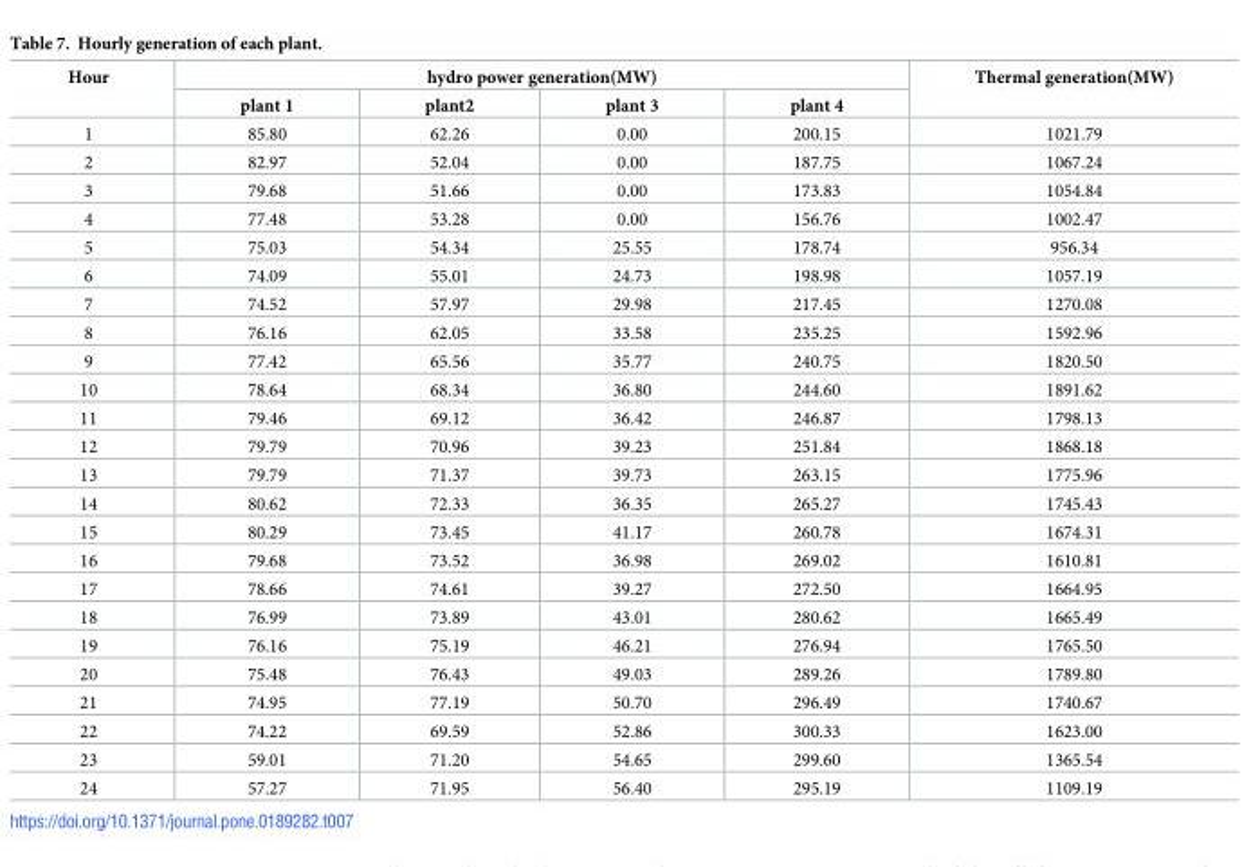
<table><thead><tr><td rowspan="2">Hour</td><td colspan="4">hydro power generation(MW)</td><td rowspan="2">Thermal generation(MW)</td></tr><tr><td>plant 1</td><td>plant2</td><td>plant 3</td><td>plant 4</td></tr></thead><tbody><tr><td>1</td><td>85.80</td><td>62.26</td><td>0.00</td><td>200.15</td><td>1021.79</td></tr><tr><td>2</td><td>82.97</td><td>52.04</td><td>0.00</td><td>187.75</td><td>1067.24</td></tr><tr><td>3</td><td>79.68</td><td>51.66</td><td>0.00</td><td>173.83</td><td>1054.84</td></tr><tr><td>4</td><td>77.48</td><td>53.28</td><td>0.00</td><td>156.76</td><td>1002.47</td></tr><tr><td>5</td><td>75.03</td><td>54.34</td><td>25.55</td><td>178.74</td><td>956.34</td></tr><tr><td>6</td><td>74.09</td><td>55.01</td><td>24.73</td><td>198.98</td><td>1057.19</td></tr><tr><td>7</td><td>74.52</td><td>57.97</td><td>29.98</td><td>217.45</td><td>1270.08</td></tr><tr><td>8</td><td>76.16</td><td>62.05</td><td>33.58</td><td>235.25</td><td>1592.96</td></tr><tr><td>9</td><td>77.42</td><td>65.56</td><td>35.77</td><td>240.75</td><td>1820.50</td></tr><tr><td>10</td><td>78.64</td><td>68.34</td><td>36.80</td><td>244.60</td><td>1891.62</td></tr><tr><td>11</td><td>79.46</td><td>69.12</td><td>36.42</td><td>246.87</td><td>1798.13</td></tr><tr><td>12</td><td>79.79</td><td>70.96</td><td>39.23</td><td>251.84</td><td>1868.18</td></tr><tr><td>13</td><td>79.79</td><td>71.37</td><td>39.73</td><td>263.15</td><td>1775.96</td></tr><tr><td>14</td><td>80.62</td><td>72.33</td><td>36.35</td><td>265.27</td><td>1745.43</td></tr><tr><td>15</td><td>80.29</td><td>73.45</td><td>41.17</td><td>260.78</td><td>1674.31</td></tr><tr><td>16</td><td>79.68</td><td>73.52</td><td>36.98</td><td>269.02</td><td>1610.81</td></tr><tr><td>17</td><td>78.66</td><td>74.61</td><td>39.27</td><td>272.50</td><td>1664.95</td></tr><tr><td>18</td><td>76.99</td><td>73.89</td><td>43.01</td><td>280.62</td><td>1665.49</td></tr><tr><td>19</td><td>76.16</td><td>75.19</td><td>46.21</td><td>276.94</td><td>1765.50</td></tr><tr><td>20</td><td>75.48</td><td>76.43</td><td>49.03</td><td>289.26</td><td>1789.80</td></tr><tr><td>21</td><td>74.95</td><td>77.19</td><td>50.70</td><td>296.49</td><td>1740.67</td></tr><tr><td>22</td><td>74.22</td><td>69.59</td><td>52.86</td><td>300.33</td><td>1623.00</td></tr><tr><td>23</td><td>59.01</td><td>71.20</td><td>54.65</td><td>299.60</td><td>1365.54</td></tr><tr><td>24</td><td>57.27</td><td>71.95</td><td>56.40</td><td>295.19</td><td>1109.19</td></tr></tbody></table>